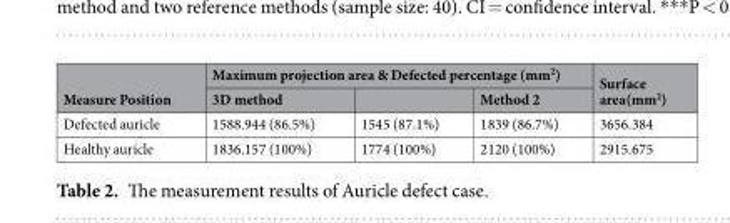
<table><thead><tr><td rowspan="2">Measure Position</td><td colspan="3">Maximum projection area &amp; Defected percentage (mm<sup>2</sup>)</td><td rowspan="2">Surface area(mm<sup>2</sup>)</td></tr><tr><td>3D method</td><td></td><td>Method 2</td></tr></thead><tbody><tr><td>Defected auricle</td><td>1588.944 (86.5%)</td><td>1545 (87.1%)</td><td>1839 (86.7%)</td><td>3656.384</td></tr><tr><td>Healthy auricle</td><td>1836.157 (100%)</td><td>1774 (100%)</td><td>2120 (100%)</td><td>2915.675</td></tr></tbody></table>